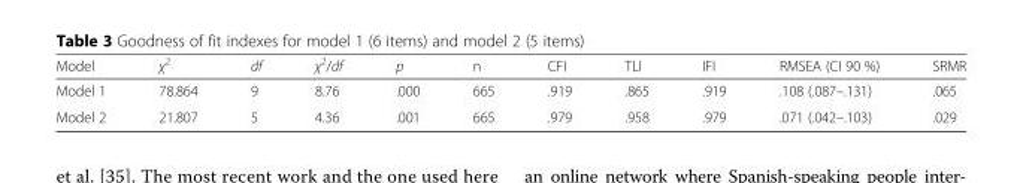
<table><thead><tr><td>Model</td><td>χ<sup>2</sup></td><td>df</td><td>χ<sup>2</sup>/df</td><td>p</td><td>n</td><td>CFI</td><td>TLI</td><td>IFI</td><td>RMSEA (CI 90 %)</td><td>SRMR</td></tr></thead><tbody><tr><td>Model 1</td><td>78.864</td><td>9</td><td>8.76</td><td>.000</td><td>665</td><td>.919</td><td>.865</td><td>.919</td><td>.108 (.087–.131)</td><td>.065</td></tr><tr><td>Model 2</td><td>21.807</td><td>5</td><td>4.36</td><td>.001</td><td>665</td><td>.979</td><td>.958</td><td>.979</td><td>.071 (.042–.103)</td><td>.029</td></tr></tbody></table>